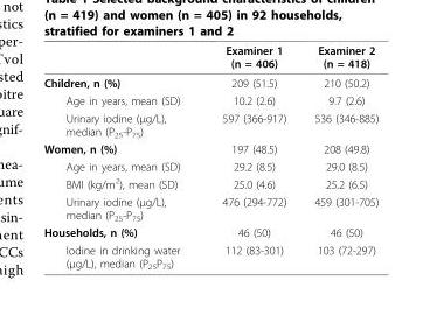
<table><thead><tr><td></td><td>Examiner 1 (n = 406)</td><td>Examiner 2 (n = 418)</td></tr></thead><tbody><tr><td>Children, n (%)</td><td>209 (51.5)</td><td>210 (50.2)</td></tr><tr><td>Age in years, mean (SD)</td><td>10.2 (2.6)</td><td>9.7 (2.6)</td></tr><tr><td>Urinary iodine (μg/L), median (P<sub>25</sub>-P<sub>75</sub>)</td><td>597 (366-917)</td><td>536 (346-885)</td></tr><tr><td>Women, n (%)</td><td>197 (48.5)</td><td>208 (49.8)</td></tr><tr><td>Age in years, mean (SD)</td><td>29.2 (8.5)</td><td>29.0 (8.5)</td></tr><tr><td>BMI (kg/m<sup>2</sup>), mean (SD)</td><td>25.0 (4.6)</td><td>25.2 (6.5)</td></tr><tr><td>Urinary iodine (μg/L), median (P<sub>25</sub>-P<sub>75</sub>)</td><td>476 (294-772)</td><td>459 (301-705)</td></tr><tr><td>Households, n (%)</td><td>46 (50)</td><td>46 (50)</td></tr><tr><td>Iodine in drinking water (μg/L), median (P<sub>25</sub>P<sub>75</sub>)</td><td>112 (83-301)</td><td>103 (72-297)</td></tr></tbody></table>